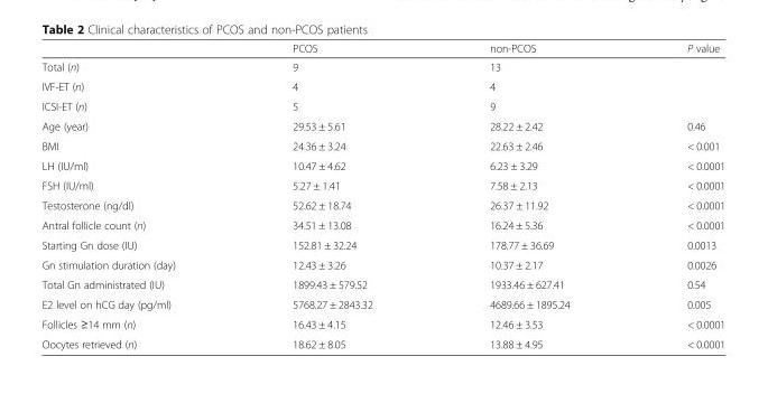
<table><thead><tr><td></td><td>PCOS</td><td>non-PCOS</td><td>P value</td></tr></thead><tbody><tr><td>Total (n)</td><td>9</td><td>13</td><td></td></tr><tr><td>IVF-ET (n)</td><td>4</td><td>4</td><td></td></tr><tr><td>ICSI-ET (n)</td><td>5</td><td>9</td><td></td></tr><tr><td>Age (year)</td><td>29.53 ± 5.61</td><td>28.22 ± 2.42</td><td>0.46</td></tr><tr><td>BMI</td><td>24.36 ± 3.24</td><td>22.63 ± 2.46</td><td>&lt; 0.001</td></tr><tr><td>LH (IU/ml)</td><td>10.47 ± 4.62</td><td>6.23 ± 3.29</td><td>&lt; 0.0001</td></tr><tr><td>FSH (IU/ml)</td><td>5.27 ± 1.41</td><td>7.58 ± 2.13</td><td>&lt; 0.0001</td></tr><tr><td>Testosterone (ng/dl)</td><td>52.62 ± 18.74</td><td>26.37 ± 11.92</td><td>&lt; 0.0001</td></tr><tr><td>Antral follicle count (n)</td><td>34.51 ± 13.08</td><td>16.24 ± 5.36</td><td>&lt; 0.0001</td></tr><tr><td>Starting Gn dose (IU)</td><td>152.81 ± 32.24</td><td>178.77 ± 36.69</td><td>0.0013</td></tr><tr><td>Gn stimulation duration (day)</td><td>12.43 ± 3.26</td><td>10.37 ± 2.17</td><td>0.0026</td></tr><tr><td>Total Gn administrated (IU)</td><td>1899.43 ± 579.52</td><td>1933.46 ± 627.41</td><td>0.54</td></tr><tr><td>E2 level on hCG day (pg/ml)</td><td>5768.27 ± 2843.32</td><td>4689.66 ± 1895.24</td><td>0.005</td></tr><tr><td>Follicles ≥14 mm (n)</td><td>16.43 ± 4.15</td><td>12.46 ± 3.53</td><td>&lt; 0.0001</td></tr><tr><td>Oocytes retrieved (n)</td><td>18.62 ± 8.05</td><td>13.88 ± 4.95</td><td>&lt; 0.0001</td></tr></tbody></table>